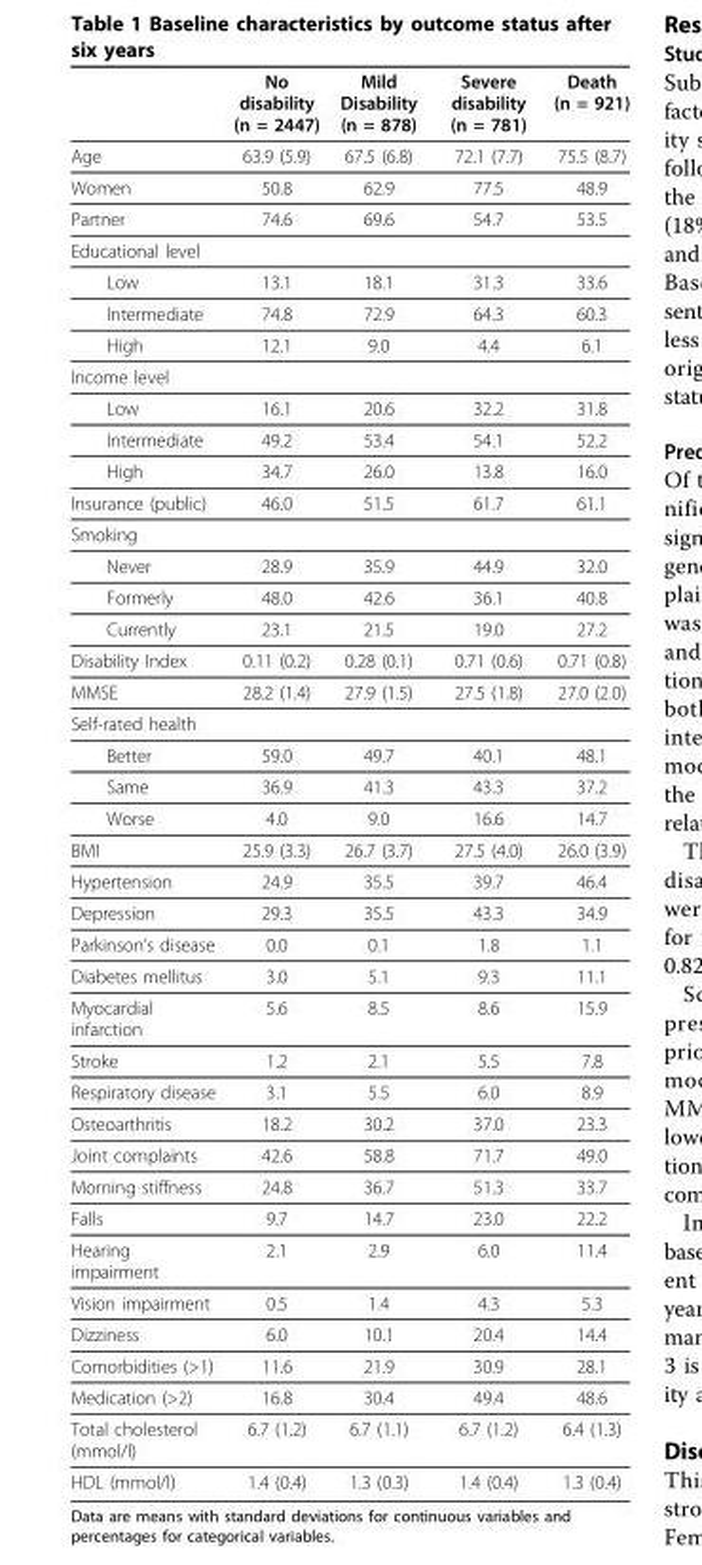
<table><thead><tr><td></td><td>No disability (n = 2447)</td><td>Mild Disability (n = 878)</td><td>Severe disability (n = 781)</td><td>Death (n = 921)</td></tr></thead><tbody><tr><td>Age</td><td>63.9 (5.9)</td><td>67.5 (6.8)</td><td>72.1 (7.7)</td><td>75.5 (8.7)</td></tr><tr><td>Women</td><td>50.8</td><td>62.9</td><td>77.5</td><td>48.9</td></tr><tr><td>Partner</td><td>74.6</td><td>69.6</td><td>54.7</td><td>53.5</td></tr><tr><td colspan="5">Educational level</td></tr><tr><td>Low</td><td>13.1</td><td>18.1</td><td>31.3</td><td>33.6</td></tr><tr><td>Intermediate</td><td>74.8</td><td>72.9</td><td>64.3</td><td>60.3</td></tr><tr><td>High</td><td>12.1</td><td>9.0</td><td>4.4</td><td>6.1</td></tr><tr><td colspan="5">Income level</td></tr><tr><td>Low</td><td>16.1</td><td>20.6</td><td>32.2</td><td>31.8</td></tr><tr><td>Intermediate</td><td>49.2</td><td>53.4</td><td>54.1</td><td>52.2</td></tr><tr><td>High</td><td>34.7</td><td>26.0</td><td>13.8</td><td>16.0</td></tr><tr><td>Insurance (public)</td><td>46.0</td><td>51.5</td><td>61.7</td><td>61.1</td></tr><tr><td colspan="5">Smoking</td></tr><tr><td>Never</td><td>28.9</td><td>35.9</td><td>44.9</td><td>32.0</td></tr><tr><td>Formerly</td><td>48.0</td><td>42.6</td><td>36.1</td><td>40.8</td></tr><tr><td>Currently</td><td>23.1</td><td>21.5</td><td>19.0</td><td>27.2</td></tr><tr><td>Disability Index</td><td>0.11 (0.2)</td><td>0.28 (0.1)</td><td>0.71 (0.6)</td><td>0.71 (0.8)</td></tr><tr><td>MMSE</td><td>28.2 (1.4)</td><td>27.9 (1.5)</td><td>27.5 (1.8)</td><td>27.0 (2.0)</td></tr><tr><td colspan="5">Self-rated health</td></tr><tr><td>Better</td><td>59.0</td><td>49.7</td><td>40.1</td><td>48.1</td></tr><tr><td>Same</td><td>36.9</td><td>41.3</td><td>43.3</td><td>37.2</td></tr><tr><td>Worse</td><td>4.0</td><td>9.0</td><td>16.6</td><td>14.7</td></tr><tr><td>BMI</td><td>25.9 (3.3)</td><td>26.7 (3.7)</td><td>27.5 (4.0)</td><td>26.0 (3.9)</td></tr><tr><td>Hypertension</td><td>24.9</td><td>35.5</td><td>39.7</td><td>46.4</td></tr><tr><td>Depression</td><td>29.3</td><td>35.5</td><td>43.3</td><td>34.9</td></tr><tr><td>Parkinson’s disease</td><td>0.0</td><td>0.1</td><td>1.8</td><td>1.1</td></tr><tr><td>Diabetes mellitus</td><td>3.0</td><td>5.1</td><td>9.3</td><td>11.1</td></tr><tr><td>Myocardial infarction</td><td>5.6</td><td>8.5</td><td>8.6</td><td>15.9</td></tr><tr><td>Stroke</td><td>1.2</td><td>2.1</td><td>5.5</td><td>7.8</td></tr><tr><td>Respiratory disease</td><td>3.1</td><td>5.5</td><td>6.0</td><td>8.9</td></tr><tr><td>Osteoarthritis</td><td>18.2</td><td>30.2</td><td>37.0</td><td>23.3</td></tr><tr><td>Joint complaints</td><td>42.6</td><td>58.8</td><td>71.7</td><td>49.0</td></tr><tr><td>Morning stiffness</td><td>24.8</td><td>36.7</td><td>51.3</td><td>33.7</td></tr><tr><td>Falls</td><td>9.7</td><td>14.7</td><td>23.0</td><td>22.2</td></tr><tr><td>Hearing impairment</td><td>2.1</td><td>2.9</td><td>6.0</td><td>11.4</td></tr><tr><td>Vision impairment</td><td>0.5</td><td>1.4</td><td>4.3</td><td>5.3</td></tr><tr><td>Dizziness</td><td>6.0</td><td>10.1</td><td>20.4</td><td>14.4</td></tr><tr><td>Comorbidities (&gt;1)</td><td>11.6</td><td>21.9</td><td>30.9</td><td>28.1</td></tr><tr><td>Medication (&gt;2)</td><td>16.8</td><td>30.4</td><td>49.4</td><td>48.6</td></tr><tr><td>Total cholesterol (mmol/l)</td><td>6.7 (1.2)</td><td>6.7 (1.1)</td><td>6.7 (1.2)</td><td>6.4 (1.3)</td></tr><tr><td>HDL (mmol/l)</td><td>1.4 (0.4)</td><td>1.3 (0.3)</td><td>1.4 (0.4)</td><td>1.3 (0.4)</td></tr></tbody></table>